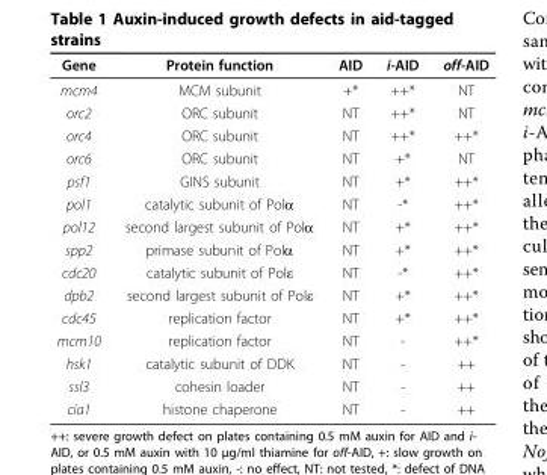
<table><thead><tr><td>Gene</td><td>Protein function</td><td>AID</td><td>i-AID</td><td>off-AID</td></tr></thead><tbody><tr><td>mcm4</td><td>MCM subunit</td><td>+*</td><td>++*</td><td>NT</td></tr><tr><td>orc2</td><td>ORC subunit</td><td>NT</td><td>++*</td><td>NT</td></tr><tr><td>orc4</td><td>ORC subunit</td><td>NT</td><td>++*</td><td>++*</td></tr><tr><td>orc6</td><td>ORC subunit</td><td>NT</td><td>+*</td><td>NT</td></tr><tr><td>psf1</td><td>GINS subunit</td><td>NT</td><td>+*</td><td>++*</td></tr><tr><td>pol1</td><td>catalytic subunit of Polα</td><td>NT</td><td>-*</td><td>++*</td></tr><tr><td>pol12</td><td>second largest subunit of Polα</td><td>NT</td><td>+*</td><td>++*</td></tr><tr><td>spp2</td><td>primase subunit of Polα</td><td>NT</td><td>+*</td><td>++*</td></tr><tr><td>cdc20</td><td>catalytic subunit of Polε</td><td>NT</td><td>-*</td><td>++*</td></tr><tr><td>dpb2</td><td>second largest subunit of Polε</td><td>NT</td><td>+*</td><td>++*</td></tr><tr><td>cdc45</td><td>replication factor</td><td>NT</td><td>+*</td><td>++*</td></tr><tr><td>mcm10</td><td>replication factor</td><td>NT</td><td>-</td><td>++*</td></tr><tr><td>hsk1</td><td>catalytic subunit of DDK</td><td>NT</td><td>-</td><td>++</td></tr><tr><td>ssl3</td><td>cohesin loader</td><td>NT</td><td>-</td><td>++</td></tr><tr><td>cia1</td><td>histone chaperone</td><td>NT</td><td>-</td><td>++</td></tr></tbody></table>